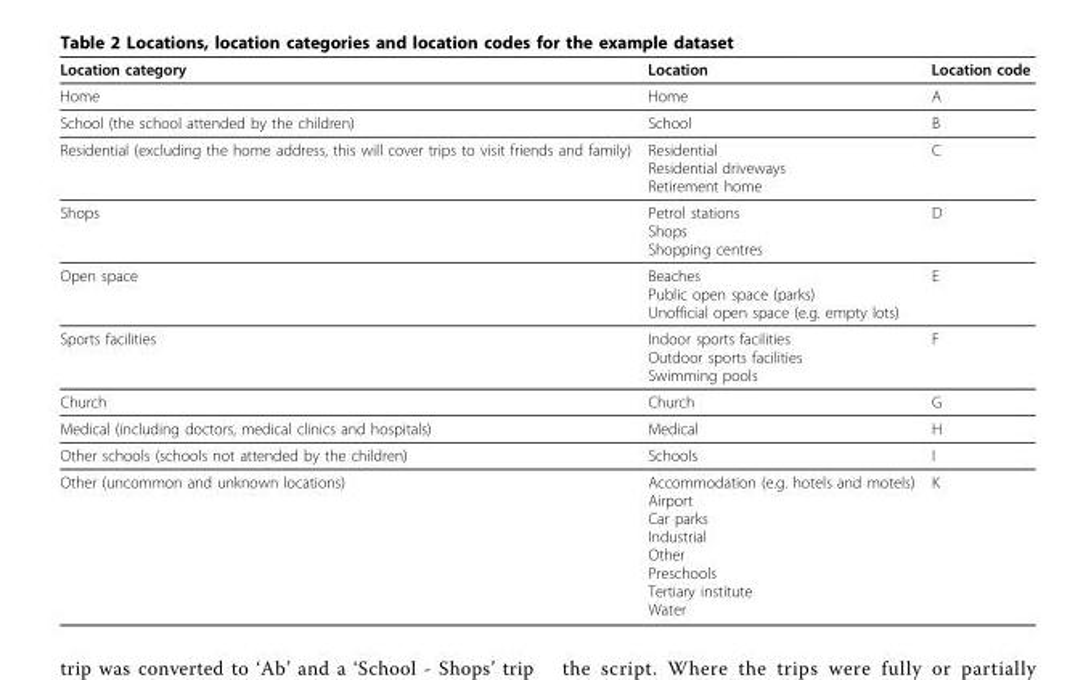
<table><thead><tr><td>Location category</td><td>Location</td><td>Location code</td></tr></thead><tbody><tr><td>Home</td><td>Home</td><td>A</td></tr><tr><td>School (the school attended by the children)</td><td>School</td><td>B</td></tr><tr><td>Residential (excluding the home address, this will cover trips to visit friends and family)</td><td>Residential Residential driveways Retirement home</td><td>C</td></tr><tr><td>Shops</td><td>Petrol stations Shops Shopping centres</td><td>D</td></tr><tr><td>Open space</td><td>Beaches Public open space (parks) Unofficial open space (e.g. empty lots)</td><td>E</td></tr><tr><td>Sports facilities</td><td>Indoor sports facilities Outdoor sports facilities Swimming pools</td><td>F</td></tr><tr><td>Church</td><td>Church</td><td>G</td></tr><tr><td>Medical (including doctors, medical clinics and hospitals)</td><td>Medical</td><td>H</td></tr><tr><td>Other schools (schools not attended by the children)</td><td>Schools</td><td>I</td></tr><tr><td>Other (uncommon and unknown locations)</td><td>Accommodation (e.g. hotels and motels) Airport Car parks Industrial Other Preschools Tertiary institute Water</td><td>K</td></tr></tbody></table>